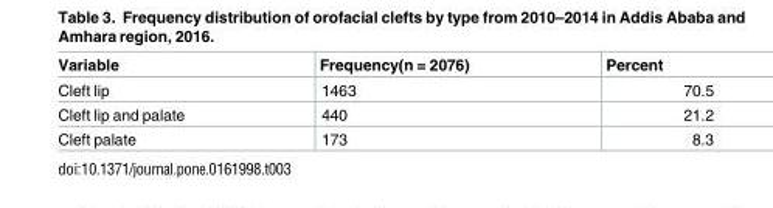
<table><thead><tr><td>Variable</td><td>Frequency(n = 2076)</td><td>Percent</td></tr></thead><tbody><tr><td>Cleft lip</td><td>1463</td><td>70.5</td></tr><tr><td>Cleft lip and palate</td><td>440</td><td>21.2</td></tr><tr><td>Cleft palate</td><td>173</td><td>8.3</td></tr></tbody></table>